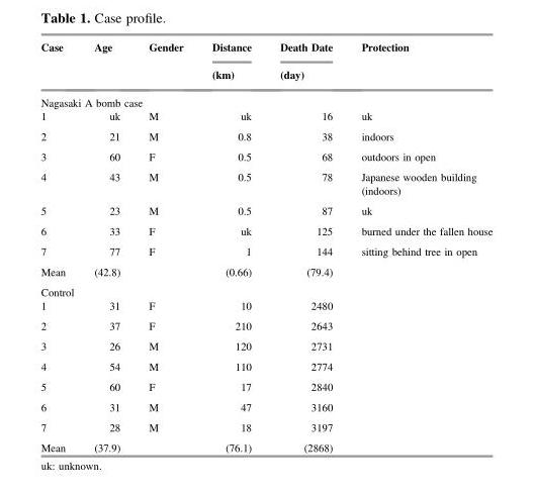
<table><thead><tr><td rowspan="2">Case</td><td rowspan="2">Age</td><td rowspan="2">Gender</td><td rowspan="2">Distance (km)</td><td rowspan="2">Death Date (day)</td><td rowspan="2">Protection</td></tr><tr></tr></thead><tbody><tr><td colspan="6">Nagasaki A bomb case</td></tr><tr><td>1</td><td>uk</td><td>M</td><td>uk</td><td>16</td><td>uk</td></tr><tr><td>2</td><td>21</td><td>M</td><td>0.8</td><td>38</td><td>indoors</td></tr><tr><td>3</td><td>60</td><td>F</td><td>0.5</td><td>68</td><td>outdoors in open</td></tr><tr><td>4</td><td>43</td><td>M</td><td>0.5</td><td>78</td><td>Japanese wooden building (indoors)</td></tr><tr><td>5</td><td>23</td><td>M</td><td>0.5</td><td>87</td><td>uk</td></tr><tr><td>6</td><td>33</td><td>F</td><td>uk</td><td>125</td><td>burned under the fallen house</td></tr><tr><td>7</td><td>77</td><td>F</td><td>1</td><td>144</td><td>sitting behind tree in open</td></tr><tr><td>Mean</td><td>(42.8)</td><td></td><td>(0.66)</td><td>(79.4)</td><td></td></tr><tr><td colspan="6">Control</td></tr><tr><td>1</td><td>31</td><td>F</td><td>10</td><td>2480</td><td></td></tr><tr><td>2</td><td>37</td><td>F</td><td>210</td><td>2643</td><td></td></tr><tr><td>3</td><td>26</td><td>M</td><td>120</td><td>2731</td><td></td></tr><tr><td>4</td><td>54</td><td>M</td><td>110</td><td>2774</td><td></td></tr><tr><td>5</td><td>60</td><td>F</td><td>17</td><td>2840</td><td></td></tr><tr><td>6</td><td>31</td><td>M</td><td>47</td><td>3160</td><td></td></tr><tr><td>7</td><td>28</td><td>M</td><td>18</td><td>3197</td><td></td></tr><tr><td>Mean</td><td>(37.9)</td><td></td><td>(76.1)</td><td>(2868)</td><td></td></tr></tbody></table>